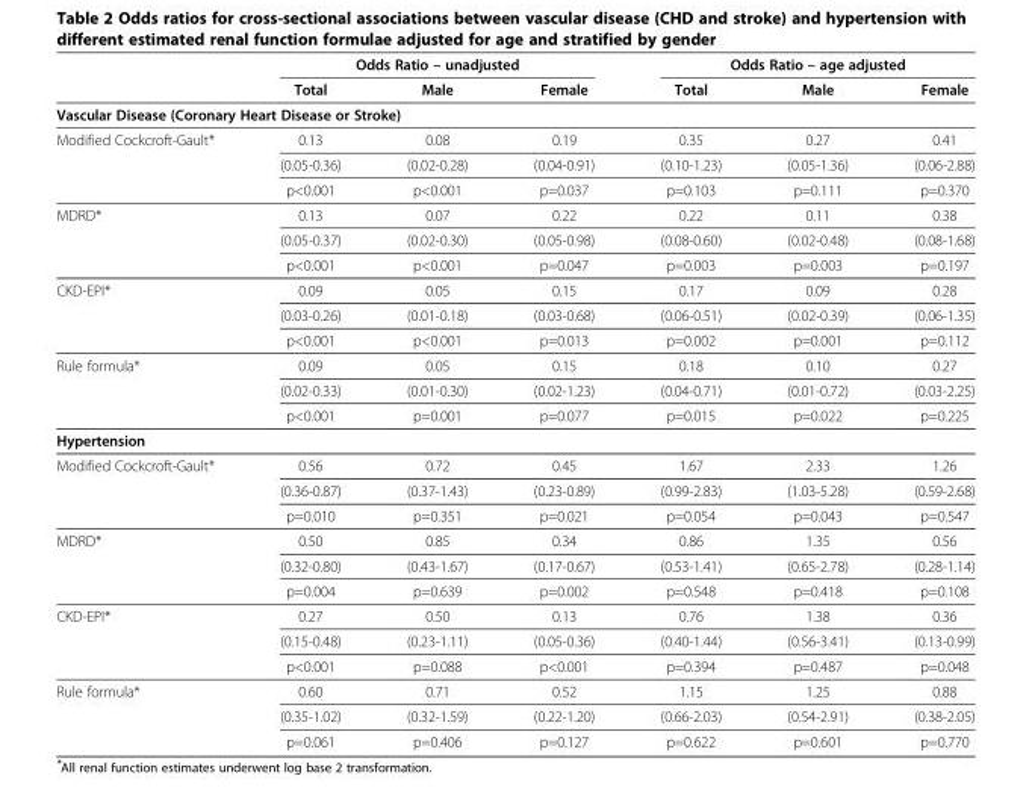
<table><thead><tr><td rowspan="2"></td><td colspan="3">Odds Ratio – unadjusted</td><td colspan="3">Odds Ratio – age adjusted</td></tr><tr><td>Total</td><td>Male</td><td>Female</td><td>Total</td><td>Male</td><td>Female</td></tr></thead><tbody><tr><td colspan="7">Vascular Disease (Coronary Heart Disease or Stroke)</td></tr><tr><td rowspan="3">Modified Cockcroft-Gault*</td><td>0.13</td><td>0.08</td><td>0.19</td><td>0.35</td><td>0.27</td><td>0.41</td></tr><tr><td>(0.05-0.36)</td><td>(0.02-0.28)</td><td>(0.04-0.91)</td><td>(0.10-1.23)</td><td>(0.05-1.36)</td><td>(0.06-2.88)</td></tr><tr><td>p&lt;0.001</td><td>p&lt;0.001</td><td>p=0.037</td><td>p=0.103</td><td>p=0.111</td><td>p=0.370</td></tr><tr><td rowspan="3">MDRD*</td><td>0.13</td><td>0.07</td><td>0.22</td><td>0.22</td><td>0.11</td><td>0.38</td></tr><tr><td>(0.05-0.37)</td><td>(0.02-0.30)</td><td>(0.05-0.98)</td><td>(0.08-0.60)</td><td>(0.02-0.48)</td><td>(0.08-1.68)</td></tr><tr><td>p&lt;0.001</td><td>p&lt;0.001</td><td>p=0.047</td><td>p=0.003</td><td>p=0.003</td><td>p=0.197</td></tr><tr><td rowspan="3">CKD-EPI*</td><td>0.09</td><td>0.05</td><td>0.15</td><td>0.17</td><td>0.09</td><td>0.28</td></tr><tr><td>(0.03-0.26)</td><td>(0.01-0.18)</td><td>(0.03-0.68)</td><td>(0.06-0.51)</td><td>(0.02-0.39)</td><td>(0.06-1.35)</td></tr><tr><td>p&lt;0.001</td><td>p&lt;0.001</td><td>p=0.013</td><td>p=0.002</td><td>p=0.001</td><td>p=0.112</td></tr><tr><td rowspan="3">Rule formula*</td><td>0.09</td><td>0.05</td><td>0.15</td><td>0.18</td><td>0.10</td><td>0.27</td></tr><tr><td>(0.02-0.33)</td><td>(0.01-0.30)</td><td>(0.02-1.23)</td><td>(0.04-0.71)</td><td>(0.01-0.72)</td><td>(0.03-2.25)</td></tr><tr><td>p&lt;0.001</td><td>p=0.001</td><td>p=0.077</td><td>p=0.015</td><td>p=0.022</td><td>p=0.225</td></tr><tr><td colspan="7">Hypertension</td></tr><tr><td rowspan="3">Modified Cockcroft-Gault*</td><td>0.56</td><td>0.72</td><td>0.45</td><td>1.67</td><td>2.33</td><td>1.26</td></tr><tr><td>(0.36-0.87)</td><td>(0.37-1.43)</td><td>(0.23-0.89)</td><td>(0.99-2.83)</td><td>(1.03-5.28)</td><td>(0.59-2.68)</td></tr><tr><td>p=0.010</td><td>p=0.351</td><td>p=0.021</td><td>p=0.054</td><td>p=0.043</td><td>p=0.547</td></tr><tr><td rowspan="3">MDRD*</td><td>0.50</td><td>0.85</td><td>0.34</td><td>0.86</td><td>1.35</td><td>0.56</td></tr><tr><td>(0.32-0.80)</td><td>(0.43-1.67)</td><td>(0.17-0.67)</td><td>(0.53-1.41)</td><td>(0.65-2.78)</td><td>(0.28-1.14)</td></tr><tr><td>p=0.004</td><td>p=0.639</td><td>p=0.002</td><td>p=0.548</td><td>p=0.418</td><td>p=0.108</td></tr><tr><td rowspan="3">CKD-EPI*</td><td>0.27</td><td>0.50</td><td>0.13</td><td>0.76</td><td>1.38</td><td>0.36</td></tr><tr><td>(0.15-0.48)</td><td>(0.23-1.11)</td><td>(0.05-0.36)</td><td>(0.40-1.44)</td><td>(0.56-3.41)</td><td>(0.13-0.99)</td></tr><tr><td>p&lt;0.001</td><td>p=0.088</td><td>p&lt;0.001</td><td>p=0.394</td><td>p=0.487</td><td>p=0.048</td></tr><tr><td rowspan="3">Rule formula*</td><td>0.60</td><td>0.71</td><td>0.52</td><td>1.15</td><td>1.25</td><td>0.88</td></tr><tr><td>(0.35-1.02)</td><td>(0.32-1.59)</td><td>(0.22-1.20)</td><td>(0.66-2.03)</td><td>(0.54-2.91)</td><td>(0.38-2.05)</td></tr><tr><td>p=0.061</td><td>p=0.406</td><td>p=0.127</td><td>p=0.622</td><td>p=0.601</td><td>p=0.770</td></tr></tbody></table>